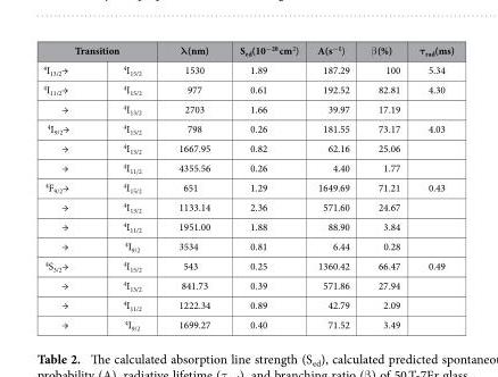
<table><thead><tr><td colspan="2">Transition</td><td rowspan="2">λ(nm) 1530</td><td rowspan="2">S<sub>ed</sub>(10<sup>−20</sup> cm<sup>2</sup>) 1.89</td><td rowspan="2">A(s<sup>−1</sup>) 187.29</td><td rowspan="2">β (%) 100</td><td rowspan="2">τ<sub>rad</sub>(ms) 5.34</td></tr><tr><td><sup>4</sup>I<sub>13/2</sub>→</td><td><sup>4</sup>I<sub>15/2</sub></td></tr></thead><tbody><tr><td><sup>4</sup>I<sub>11/2</sub>→</td><td><sup>4</sup>I<sub>15/2</sub></td><td>977</td><td>0.61</td><td>192.52</td><td>82.81</td><td>4.30</td></tr><tr><td>→</td><td><sup>4</sup>I<sub>13/2</sub></td><td>2703</td><td>1.66</td><td>39.97</td><td>17.19</td><td></td></tr><tr><td><sup>4</sup>I<sub>9/2</sub>→</td><td><sup>4</sup>I<sub>15/2</sub></td><td>798</td><td>0.26</td><td>181.55</td><td>73.17</td><td>4.03</td></tr><tr><td>→</td><td><sup>4</sup>I<sub>13/2</sub></td><td>1667.95</td><td>0.82</td><td>62.16</td><td>25.06</td><td></td></tr><tr><td>→</td><td><sup>4</sup>I<sub>11/2</sub></td><td>4355.56</td><td>0.26</td><td>4.40</td><td>1.77</td><td></td></tr><tr><td><sup>4</sup>F<sub>9/2</sub>→</td><td><sup>4</sup>I<sub>15/2</sub></td><td>651</td><td>1.29</td><td>1649.69</td><td>71.21</td><td>0.43</td></tr><tr><td>→</td><td><sup>4</sup>I<sub>13/2</sub></td><td>1133.14</td><td>2.36</td><td>571.60</td><td>24.67</td><td></td></tr><tr><td>→</td><td><sup>4</sup>I<sub>11/2</sub></td><td>1951.00</td><td>1.88</td><td>88.90</td><td>3.84</td><td></td></tr><tr><td>→</td><td><sup>4</sup>I<sub>9/2</sub></td><td>3534</td><td>0.81</td><td>6.44</td><td>0.28</td><td></td></tr><tr><td><sup>4</sup>S<sub>3/2</sub>→</td><td><sup>4</sup>I<sub>15/2</sub></td><td>543</td><td>0.25</td><td>1360.42</td><td>66.47</td><td>0.49</td></tr><tr><td>→</td><td><sup>4</sup>I<sub>13/2</sub></td><td>841.73</td><td>0.39</td><td>571.86</td><td>27.94</td><td></td></tr><tr><td>→</td><td><sup>4</sup>I<sub>11/2</sub></td><td>1222.34</td><td>0.89</td><td>42.79</td><td>2.09</td><td></td></tr><tr><td>→</td><td><sup>4</sup>I<sub>9/2</sub></td><td>1699.27</td><td>0.40</td><td>71.52</td><td>3.49</td><td></td></tr></tbody></table>